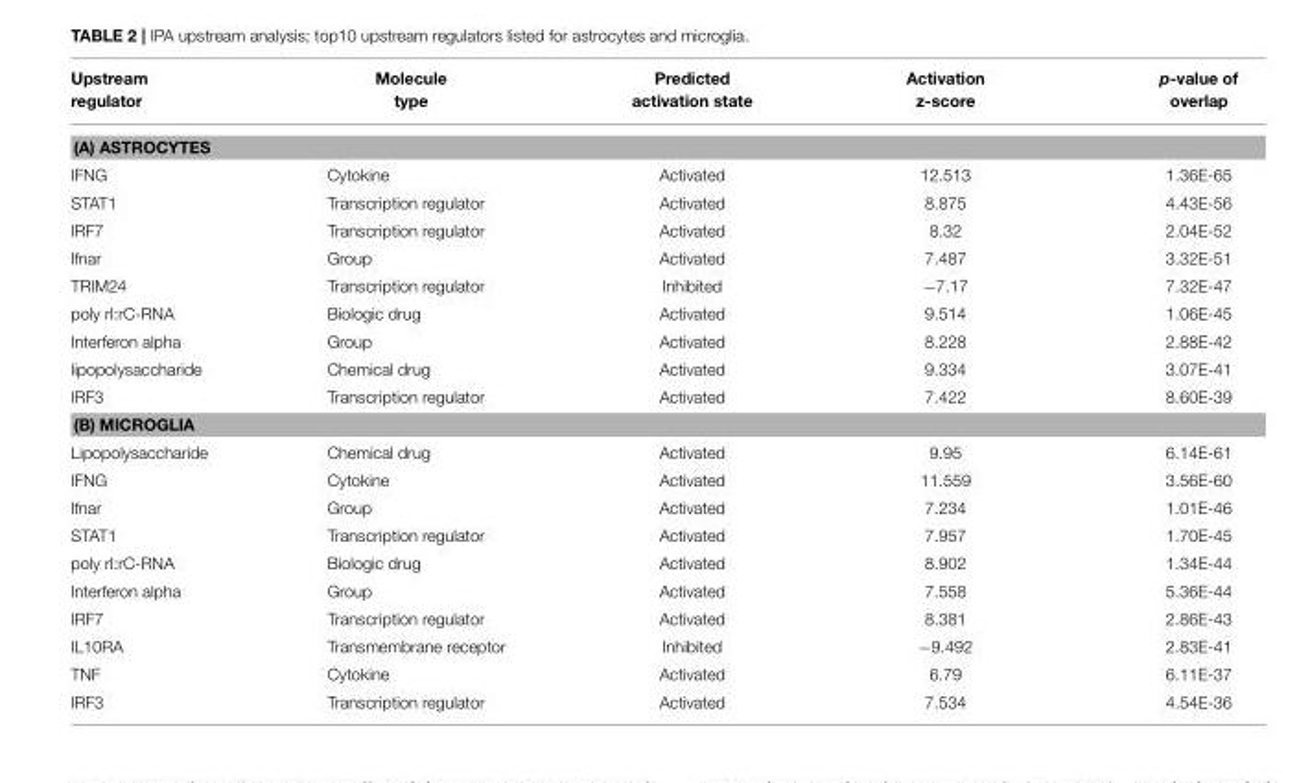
<table><thead><tr><td>Upstream regulator</td><td>Molecule type</td><td>Predicted activation state</td><td>Activation z-score</td><td>p-value of overlap</td></tr></thead><tbody><tr><td colspan="5">(A) ASTROCYTES</td></tr><tr><td>IFNG</td><td>Cytokine</td><td>Activated</td><td>12.513</td><td>1.36E-65</td></tr><tr><td>STAT1</td><td>Transcription regulator</td><td>Activated</td><td>8.875</td><td>4.43E-56</td></tr><tr><td>IRF7</td><td>Transcription regulator</td><td>Activated</td><td>8.32</td><td>2.04E-52</td></tr><tr><td>Ifnar</td><td>Group</td><td>Activated</td><td>7.487</td><td>3.32E-51</td></tr><tr><td>TRIM24</td><td>Transcription regulator</td><td>Inhibited</td><td>−7.17</td><td>7.32E-47</td></tr><tr><td>poly rI:rC-RNA</td><td>Biologic drug</td><td>Activated</td><td>9.514</td><td>1.06E-45</td></tr><tr><td>Interferon alpha</td><td>Group</td><td>Activated</td><td>8.228</td><td>2.88E-42</td></tr><tr><td>lipopolysaccharide</td><td>Chemical drug</td><td>Activated</td><td>9.334</td><td>3.07E-41</td></tr><tr><td>IRF3</td><td>Transcription regulator</td><td>Activated</td><td>7.422</td><td>8.60E-39</td></tr><tr><td colspan="5">(B) MICROGLIA</td></tr><tr><td>Lipopolysaccharide</td><td>Chemical drug</td><td>Activated</td><td>9.95</td><td>6.14E-61</td></tr><tr><td>IFNG</td><td>Cytokine</td><td>Activated</td><td>11.559</td><td>3.56E-60</td></tr><tr><td>Ifnar</td><td>Group</td><td>Activated</td><td>7.234</td><td>1.01E-46</td></tr><tr><td>STAT1</td><td>Transcription regulator</td><td>Activated</td><td>7.957</td><td>1.70E-45</td></tr><tr><td>poly rI:rC-RNA</td><td>Biologic drug</td><td>Activated</td><td>8.902</td><td>1.34E-44</td></tr><tr><td>Interferon alpha</td><td>Group</td><td>Activated</td><td>7.558</td><td>5.36E-44</td></tr><tr><td>IRF7</td><td>Transcription regulator</td><td>Activated</td><td>8.381</td><td>2.86E-43</td></tr><tr><td>IL10RA</td><td>Transmembrane receptor</td><td>Inhibited</td><td>−9.492</td><td>2.83E-41</td></tr><tr><td>TNF</td><td>Cytokine</td><td>Activated</td><td>6.79</td><td>6.11E-37</td></tr><tr><td>IRF3</td><td>Transcription regulator</td><td>Activated</td><td>7.534</td><td>4.54E-36</td></tr></tbody></table>